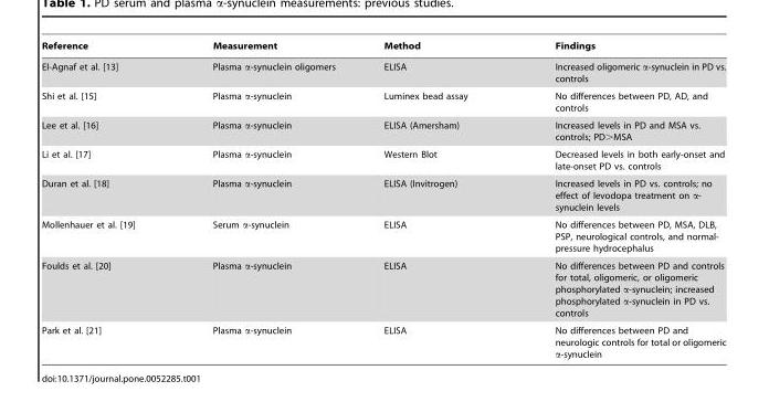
<table><thead><tr><td>Reference</td><td>Measurement</td><td>Method</td><td>Findings</td></tr></thead><tbody><tr><td>El-Agnaf et al. [13]</td><td>Plasma α-synuclein oligomers</td><td>ELISA</td><td>Increased oligomeric α-synuclein in PD vs. controls</td></tr><tr><td>Shi et al. [15]</td><td>Plasma α-synuclein</td><td>Luminex bead assay</td><td>No differences between PD, AD, and controls</td></tr><tr><td>Lee et al. [16]</td><td>Plasma α-synuclein</td><td>ELISA (Amersham)</td><td>Increased levels in PD and MSA vs. controls; PD&gt;MSA</td></tr><tr><td>Li et al. [17]</td><td>Plasma α-synuclein</td><td>Western Blot</td><td>Decreased levels in both early-onset and late-onset PD vs. controls</td></tr><tr><td>Duran et al. [18]</td><td>Plasma α-synuclein</td><td>ELISA (Invitrogen)</td><td>Increased levels in PD vs. controls; no effect of levodopa treatment on α- synuclein levels</td></tr><tr><td>Mollenhauer et al. [19]</td><td>Serum α-synuclein</td><td>ELISA</td><td>No differences between PD, MSA, DLB, PSP, neurological controls, and normal- pressure hydrocephalus</td></tr><tr><td>Foulds et al. [20]</td><td>Plasma α-synuclein</td><td>ELISA</td><td>No differences between PD and controls for total, oligomeric, or oligomeric phosphorylated α-synuclein; increased phosphorylated α-synuclein in PD vs. controls</td></tr><tr><td>Park et al. [21]</td><td>Plasma α-synuclein</td><td>ELISA</td><td>No differences between PD and neurologic controls for total or oligomeric α-synuclein</td></tr></tbody></table>